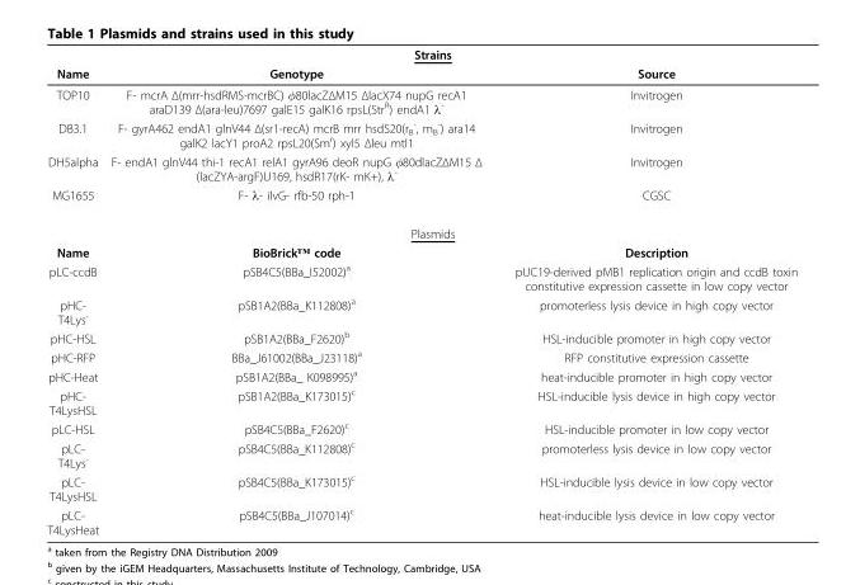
<table><thead><tr><td colspan="3">Strains</td></tr><tr><td>Name</td><td>Genotype</td><td>Source</td></tr></thead><tbody><tr><td>TOP10</td><td>F- mcrA Δ(mrr-hsdRMS-mcrBC) φ80lacZΔM15 ΔlacX74 nupG recA1 araD139 Δ(ara-leu)7697 galE15 galK16 rpsL(Str<sup>R</sup>) endA1 λ<sup>-</sup></td><td>Invitrogen</td></tr><tr><td>DB3.1</td><td>F- gyrA462 endA1 glnV44 Δ(sr1-recA) mcrB mrr hsdS20(r<sub>B</sub> <sup>-</sup>, m<sub>B</sub> <sup>-</sup>) ara14 galK2 lacY1 proA2 rpsL20(Sm<sup>r</sup>) xyl5 Δleu mtl1</td><td>Invitrogen</td></tr><tr><td>DH5alpha</td><td>F- endA1 glnV44 thi-1 recA1 relA1 gyrA96 deoR nupG φ80dlacZΔM15 Δ (lacZYA-argF)U169, hsdR17(rK- mK+), λ<sup>-</sup></td><td>Invitrogen</td></tr><tr><td>MG1655</td><td>F- λ- ilvG- rfb-50 rph-1</td><td>CGSC</td></tr><tr><td colspan="3">Plasmids</td></tr><tr><td>Name</td><td>BioBrick™ code</td><td>Description</td></tr><tr><td>pLC-ccdB</td><td>pSB4C5(BBa_I52002)<sup>a</sup></td><td>pUC19-derived pMB1 replication origin and ccdB toxin constitutive expression cassette in low copy vector</td></tr><tr><td>pHC- T4Lys<sup>-</sup></td><td>pSB1A2(BBa_K112808)<sup>a</sup></td><td>promoterless lysis device in high copy vector</td></tr><tr><td>pHC-HSL</td><td>pSB1A2(BBa_F2620)<sup>b</sup></td><td>HSL-inducible promoter in high copy vector</td></tr><tr><td>pHC-RFP</td><td>BBa_J61002(BBa_J23118)<sup>a</sup></td><td>RFP constitutive expression cassette</td></tr><tr><td>pHC-Heat</td><td>pSB1A2(BBa_ K098995)<sup>a</sup></td><td>heat-inducible promoter in high copy vector</td></tr><tr><td>pHC- T4LysHSL</td><td>pSB1A2(BBa_K173015)<sup>c</sup></td><td>HSL-inducible lysis device in high copy vector</td></tr><tr><td>pLC-HSL</td><td>pSB4C5(BBa_F2620)<sup>c</sup></td><td>HSL-inducible promoter in low copy vector</td></tr><tr><td>pLC- T4Lys<sup>-</sup></td><td>pSB4C5(BBa_K112808)<sup>c</sup></td><td>promoterless lysis device in low copy vector</td></tr><tr><td>pLC- T4LysHSL</td><td>pSB4C5(BBa_K173015)<sup>c</sup></td><td>HSL-inducible lysis device in low copy vector</td></tr><tr><td>pLC- T4LysHeat</td><td>pSB4C5(BBa_J107014)<sup>c</sup></td><td>heat-inducible lysis device in low copy vector</td></tr></tbody></table>